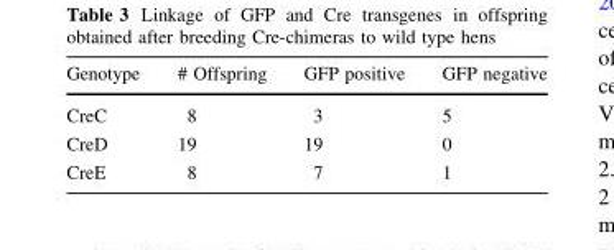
<table><thead><tr><td>Genotype</td><td># Offspring</td><td>GFP positive</td><td>GFP negative</td></tr></thead><tbody><tr><td>CreC</td><td>8</td><td>3</td><td>5</td></tr><tr><td>CreD</td><td>19</td><td>19</td><td>0</td></tr><tr><td>CreE</td><td>8</td><td>7</td><td>1</td></tr></tbody></table>